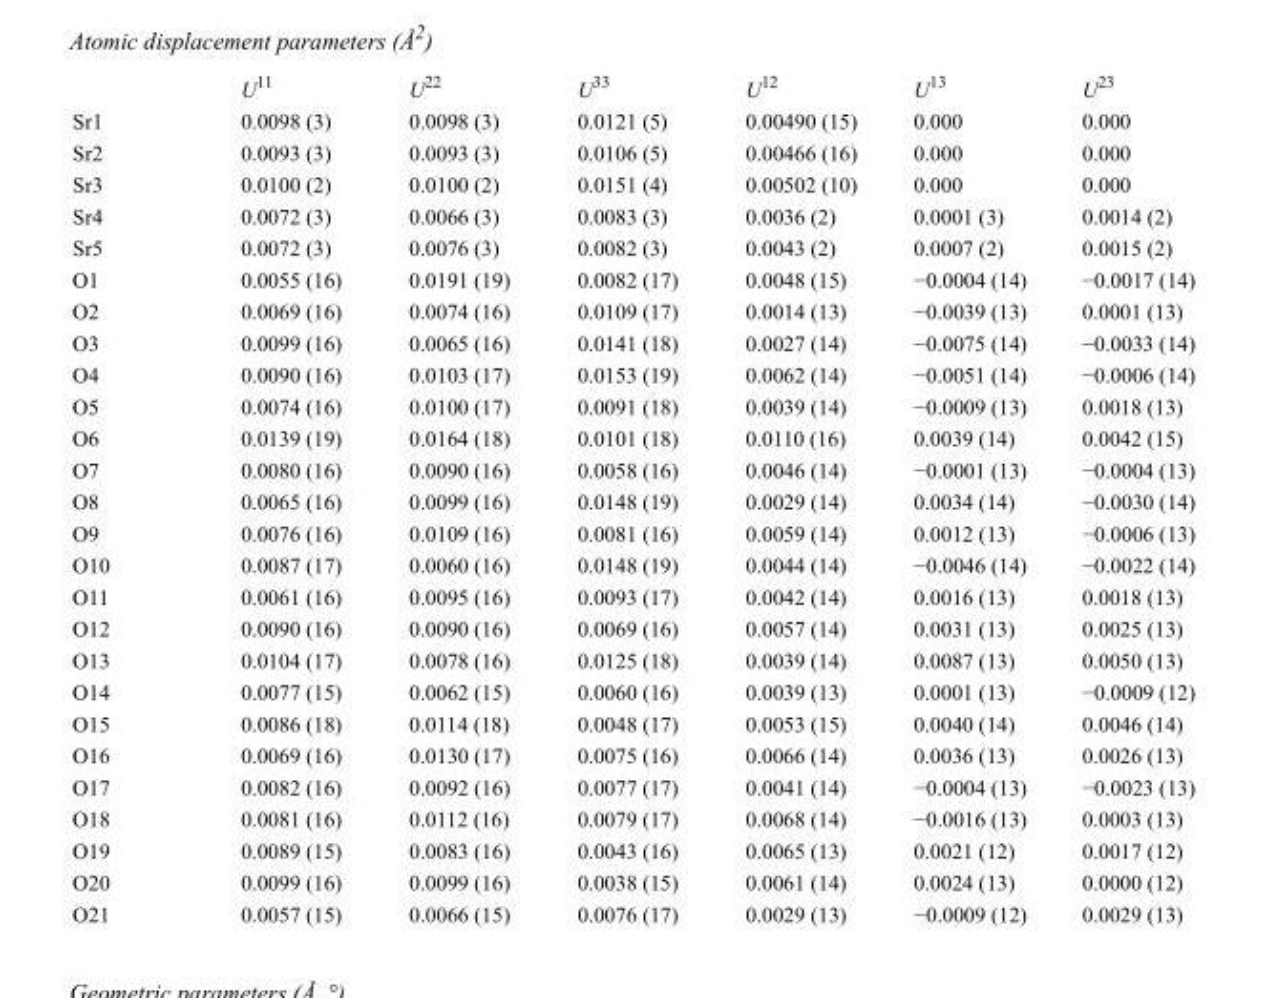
<table><thead><tr><td></td><td>U<sup>11</sup></td><td>U<sup>22</sup></td><td>U<sup>33</sup></td><td>U<sup>12</sup></td><td>U<sup>13</sup></td><td>U<sup>23</sup></td></tr></thead><tbody><tr><td>Sr1</td><td>0.0098 (3)</td><td>0.0098 (3)</td><td>0.0121 (5)</td><td>0.00490 (15)</td><td>0.000</td><td>0.000</td></tr><tr><td>Sr2</td><td>0.0093 (3)</td><td>0.0093 (3)</td><td>0.0106 (5)</td><td>0.00466 (16)</td><td>0.000</td><td>0.000</td></tr><tr><td>Sr3</td><td>0.0100 (2)</td><td>0.0100 (2)</td><td>0.0151 (4)</td><td>0.00502 (10)</td><td>0.000</td><td>0.000</td></tr><tr><td>Sr4</td><td>0.0072 (3)</td><td>0.0066 (3)</td><td>0.0083 (3)</td><td>0.0036 (2)</td><td>0.0001 (3)</td><td>0.0014 (2)</td></tr><tr><td>Sr5</td><td>0.0072 (3)</td><td>0.0076 (3)</td><td>0.0082 (3)</td><td>0.0043 (2)</td><td>0.0007 (2)</td><td>0.0015 (2)</td></tr><tr><td>O1</td><td>0.0055 (16)</td><td>0.0191 (19)</td><td>0.0082 (17)</td><td>0.0048 (15)</td><td>−0.0004 (14)</td><td>−0.0017 (14)</td></tr><tr><td>O2</td><td>0.0069 (16)</td><td>0.0074 (16)</td><td>0.0109 (17)</td><td>0.0014 (13)</td><td>−0.0039 (13)</td><td>0.0001 (13)</td></tr><tr><td>O3</td><td>0.0099 (16)</td><td>0.0065 (16)</td><td>0.0141 (18)</td><td>0.0027 (14)</td><td>−0.0075 (14)</td><td>−0.0033 (14)</td></tr><tr><td>O4</td><td>0.0090 (16)</td><td>0.0103 (17)</td><td>0.0153 (19)</td><td>0.0062 (14)</td><td>−0.0051 (14)</td><td>−0.0006 (14)</td></tr><tr><td>O5</td><td>0.0074 (16)</td><td>0.0100 (17)</td><td>0.0091 (18)</td><td>0.0039 (14)</td><td>−0.0009 (13)</td><td>0.0018 (13)</td></tr><tr><td>O6</td><td>0.0139 (19)</td><td>0.0164 (18)</td><td>0.0101 (18)</td><td>0.0110 (16)</td><td>0.0039 (14)</td><td>0.0042 (15)</td></tr><tr><td>O7</td><td>0.0080 (16)</td><td>0.0090 (16)</td><td>0.0058 (16)</td><td>0.0046 (14)</td><td>−0.0001 (13)</td><td>−0.0004 (13)</td></tr><tr><td>O8</td><td>0.0065 (16)</td><td>0.0099 (16)</td><td>0.0148 (19)</td><td>0.0029 (14)</td><td>0.0034 (14)</td><td>−0.0030 (14)</td></tr><tr><td>O9</td><td>0.0076 (16)</td><td>0.0109 (16)</td><td>0.0081 (16)</td><td>0.0059 (14)</td><td>0.0012 (13)</td><td>−0.0006 (13)</td></tr><tr><td>O10</td><td>0.0087 (17)</td><td>0.0060 (16)</td><td>0.0148 (19)</td><td>0.0044 (14)</td><td>−0.0046 (14)</td><td>−0.0022 (14)</td></tr><tr><td>O11</td><td>0.0061 (16)</td><td>0.0095 (16)</td><td>0.0093 (17)</td><td>0.0042 (14)</td><td>0.0016 (13)</td><td>0.0018 (13)</td></tr><tr><td>O12</td><td>0.0090 (16)</td><td>0.0090 (16)</td><td>0.0069 (16)</td><td>0.0057 (14)</td><td>0.0031 (13)</td><td>0.0025 (13)</td></tr><tr><td>O13</td><td>0.0104 (17)</td><td>0.0078 (16)</td><td>0.0125 (18)</td><td>0.0039 (14)</td><td>0.0087 (13)</td><td>0.0050 (13)</td></tr><tr><td>O14</td><td>0.0077 (15)</td><td>0.0062 (15)</td><td>0.0060 (16)</td><td>0.0039 (13)</td><td>0.0001 (13)</td><td>−0.0009 (12)</td></tr><tr><td>O15</td><td>0.0086 (18)</td><td>0.0114 (18)</td><td>0.0048 (17)</td><td>0.0053 (15)</td><td>0.0040 (14)</td><td>0.0046 (14)</td></tr><tr><td>O16</td><td>0.0069 (16)</td><td>0.0130 (17)</td><td>0.0075 (16)</td><td>0.0066 (14)</td><td>0.0036 (13)</td><td>0.0026 (13)</td></tr><tr><td>O17</td><td>0.0082 (16)</td><td>0.0092 (16)</td><td>0.0077 (17)</td><td>0.0041 (14)</td><td>−0.0004 (13)</td><td>−0.0023 (13)</td></tr><tr><td>O18</td><td>0.0081 (16)</td><td>0.0112 (16)</td><td>0.0079 (17)</td><td>0.0068 (14)</td><td>−0.0016 (13)</td><td>0.0003 (13)</td></tr><tr><td>O19</td><td>0.0089 (15)</td><td>0.0083 (16)</td><td>0.0043 (16)</td><td>0.0065 (13)</td><td>0.0021 (12)</td><td>0.0017 (12)</td></tr><tr><td>O20</td><td>0.0099 (16)</td><td>0.0099 (16)</td><td>0.0038 (15)</td><td>0.0061 (14)</td><td>0.0024 (13)</td><td>0.0000 (12)</td></tr><tr><td>O21</td><td>0.0057 (15)</td><td>0.0066 (15)</td><td>0.0076 (17)</td><td>0.0029 (13)</td><td>−0.0009 (12)</td><td>0.0029 (13)</td></tr></tbody></table>